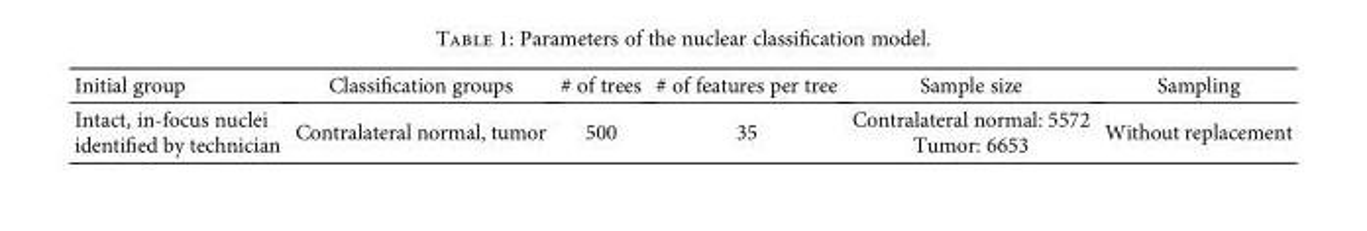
<table><thead><tr><td>Initial group</td><td>Classification groups</td><td># of trees</td><td># of features per tree</td><td>Sample size</td><td>Sampling</td></tr></thead><tbody><tr><td>Intact, in-focus nuclei identified by technician</td><td>Contralateral normal, tumor</td><td>500</td><td>35</td><td>Contralateral normal: 5572 Tumor: 6653</td><td>Without replacement</td></tr></tbody></table>